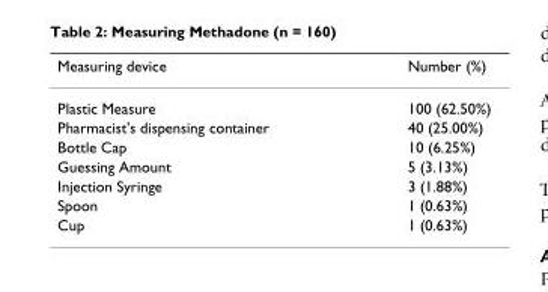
<table><thead><tr><td>Measuring device</td><td>Number (%)</td></tr></thead><tbody><tr><td>Plastic Measure</td><td>100 (62.50%)</td></tr><tr><td>Pharmacist&#x27;s dispensing container</td><td>40 (25.00%)</td></tr><tr><td>Bottle Cap</td><td>10 (6.25%)</td></tr><tr><td>Guessing Amount</td><td>5 (3.13%)</td></tr><tr><td>Injection Syringe</td><td>3 (1.88%)</td></tr><tr><td>Spoon</td><td>1 (0.63%)</td></tr><tr><td>Cup</td><td>1 (0.63%)</td></tr></tbody></table>